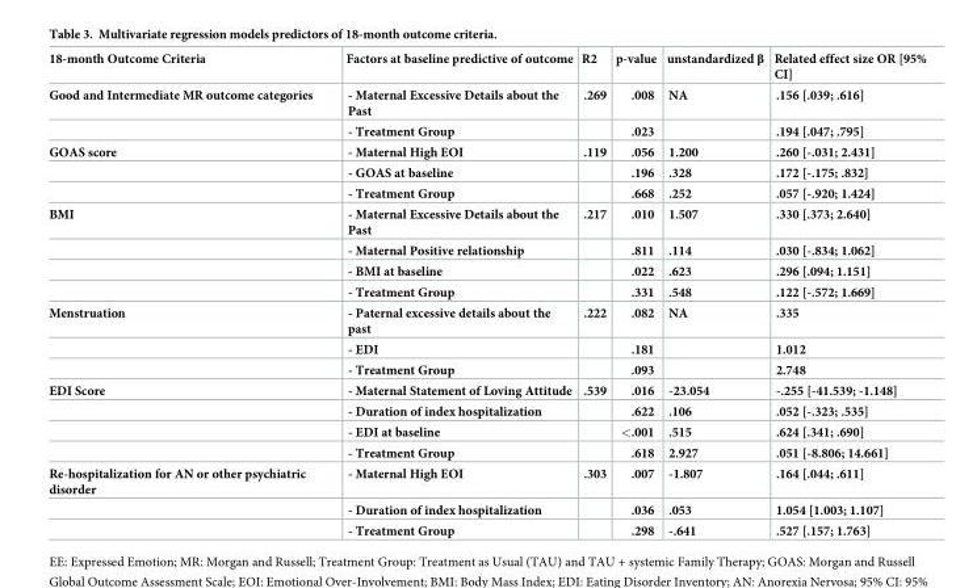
<table><thead><tr><td>18-month Outcome Criteria</td><td>Factors at baseline predictive of outcome</td><td>R2</td><td>p-value</td><td>unstandardized β</td><td>Related effect size OR [95% CI]</td></tr></thead><tbody><tr><td rowspan="2">Good and Intermediate MR outcome categories</td><td>- Maternal Excessive Details about the Past</td><td>.269</td><td>.008</td><td>NA</td><td>.156 [.039; .616]</td></tr><tr><td>- Treatment Group</td><td></td><td>.023</td><td></td><td>.194 [.047; .795]</td></tr><tr><td rowspan="3">GOAS score</td><td>- Maternal High EOI</td><td>.119</td><td>.056</td><td>1.200</td><td>.260 [-.031; 2.431]</td></tr><tr><td>- GOAS at baseline</td><td></td><td>.196</td><td>.328</td><td>.172 [-.175; .832]</td></tr><tr><td>- Treatment Group</td><td></td><td>.668</td><td>.252</td><td>.057 [-.920; 1.424]</td></tr><tr><td rowspan="4">BMI</td><td>- Maternal Excessive Details about the Past</td><td>.217</td><td>.010</td><td>1.507</td><td>.330 [.373; 2.640]</td></tr><tr><td>- Maternal Positive relationship</td><td></td><td>.811</td><td>.114</td><td>.030 [-.834; 1.062]</td></tr><tr><td>- BMI at baseline</td><td></td><td>.022</td><td>.623</td><td>.296 [.094; 1.151]</td></tr><tr><td>- Treatment Group</td><td></td><td>.331</td><td>.548</td><td>.122 [-.572; 1.669]</td></tr><tr><td rowspan="3">Menstruation</td><td>- Paternal excessive details about the past</td><td>.222</td><td>.082</td><td>NA</td><td>.335</td></tr><tr><td>- EDI</td><td></td><td>.181</td><td></td><td>1.012</td></tr><tr><td>- Treatment Group</td><td></td><td>.093</td><td></td><td>2.748</td></tr><tr><td rowspan="4">EDI Score</td><td>- Maternal Statement of Loving Attitude</td><td>.539</td><td>.016</td><td>-23.054</td><td>-.255 [-41.539; -1.148]</td></tr><tr><td>- Duration of index hospitalization</td><td></td><td>.622</td><td>.106</td><td>.052 [-.323; .535]</td></tr><tr><td>- EDI at baseline</td><td></td><td>&lt;.001</td><td>.515</td><td>.624 [.341; .690]</td></tr><tr><td>- Treatment Group</td><td></td><td>.618</td><td>2.927</td><td>.051 [-8.806; 14.661]</td></tr><tr><td rowspan="3">Re-hospitalization for AN or other psychiatric disorder</td><td>- Maternal High EOI</td><td>.303</td><td>.007</td><td>-1.807</td><td>.164 [.044; .611]</td></tr><tr><td>- Duration of index hospitalization</td><td></td><td>.036</td><td>.053</td><td>1.054 [1.003; 1.107]</td></tr><tr><td>- Treatment Group</td><td></td><td>.298</td><td>-.641</td><td>.527 [.157; 1.763]</td></tr></tbody></table>